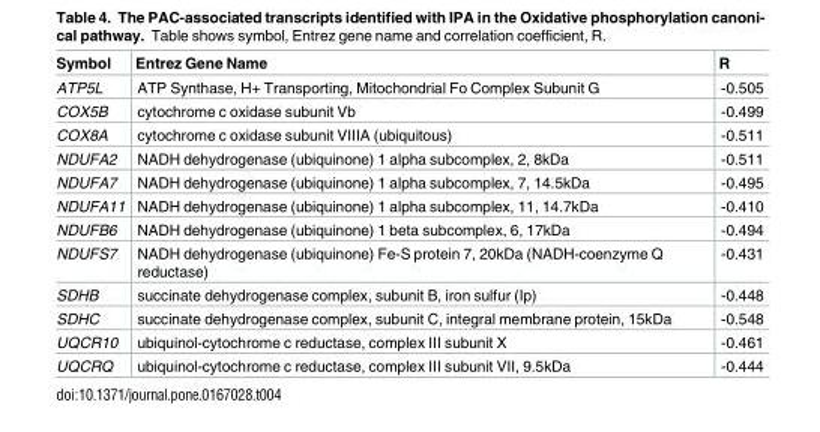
<table><thead><tr><td>Symbol</td><td>Entrez Gene Name</td><td>R</td></tr></thead><tbody><tr><td>ATP5L</td><td>ATP Synthase, H+ Transporting, Mitochondrial Fo Complex Subunit G</td><td>-0.505</td></tr><tr><td>COX5B</td><td>cytochrome c oxidase subunit Vb</td><td>-0.499</td></tr><tr><td>COX8A</td><td>cytochrome c oxidase subunit VIIIA (ubiquitous)</td><td>-0.511</td></tr><tr><td>NDUFA2</td><td>NADH dehydrogenase (ubiquinone) 1 alpha subcomplex, 2, 8kDa</td><td>-0.511</td></tr><tr><td>NDUFA7</td><td>NADH dehydrogenase (ubiquinone) 1 alpha subcomplex, 7, 14.5kDa</td><td>-0.495</td></tr><tr><td>NDUFA11</td><td>NADH dehydrogenase (ubiquinone) 1 alpha subcomplex, 11, 14.7kDa</td><td>-0.410</td></tr><tr><td>NDUFB6</td><td>NADH dehydrogenase (ubiquinone) 1 beta subcomplex, 6, 17kDa</td><td>-0.494</td></tr><tr><td>NDUFS7</td><td>NADH dehydrogenase (ubiquinone) Fe-S protein 7, 20kDa (NADH-coenzyme Q reductase)</td><td>-0.431</td></tr><tr><td>SDHB</td><td>succinate dehydrogenase complex, subunit B, iron sulfur (Ip)</td><td>-0.448</td></tr><tr><td>SDHC</td><td>succinate dehydrogenase complex, subunit C, integral membrane protein, 15kDa</td><td>-0.548</td></tr><tr><td>UQCR10</td><td>ubiquinol-cytochrome c reductase, complex III subunit X</td><td>-0.461</td></tr><tr><td>UQCRQ</td><td>ubiquinol-cytochrome c reductase, complex III subunit VII, 9.5kDa</td><td>-0.444</td></tr></tbody></table>